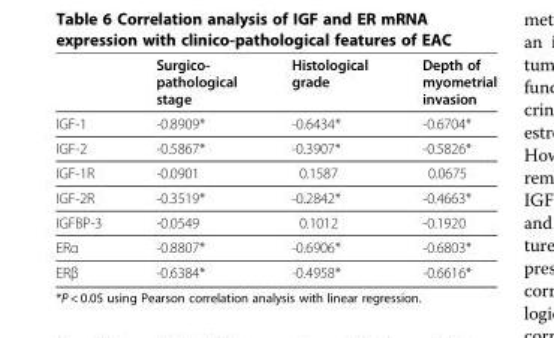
<table><thead><tr><td></td><td>Surgico- pathological stage</td><td>Histological grade</td><td>Depth of myometrial invasion</td></tr></thead><tbody><tr><td>IGF-1</td><td>-0.8909*</td><td>-0.6434*</td><td>-0.6704*</td></tr><tr><td>IGF-2</td><td>-0.5867*</td><td>-0.3907*</td><td>-0.5826*</td></tr><tr><td>IGF-1R</td><td>-0.0901</td><td>0.1587</td><td>0.0675</td></tr><tr><td>IGF-2R</td><td>-0.3519*</td><td>-0.2842*</td><td>-0.4663*</td></tr><tr><td>IGFBP-3</td><td>-0.0549</td><td>0.1012</td><td>-0.1920</td></tr><tr><td>ERα</td><td>-0.8807*</td><td>-0.6906*</td><td>-0.6803*</td></tr><tr><td>ERβ</td><td>-0.6384*</td><td>-0.4958*</td><td>-0.6616*</td></tr></tbody></table>